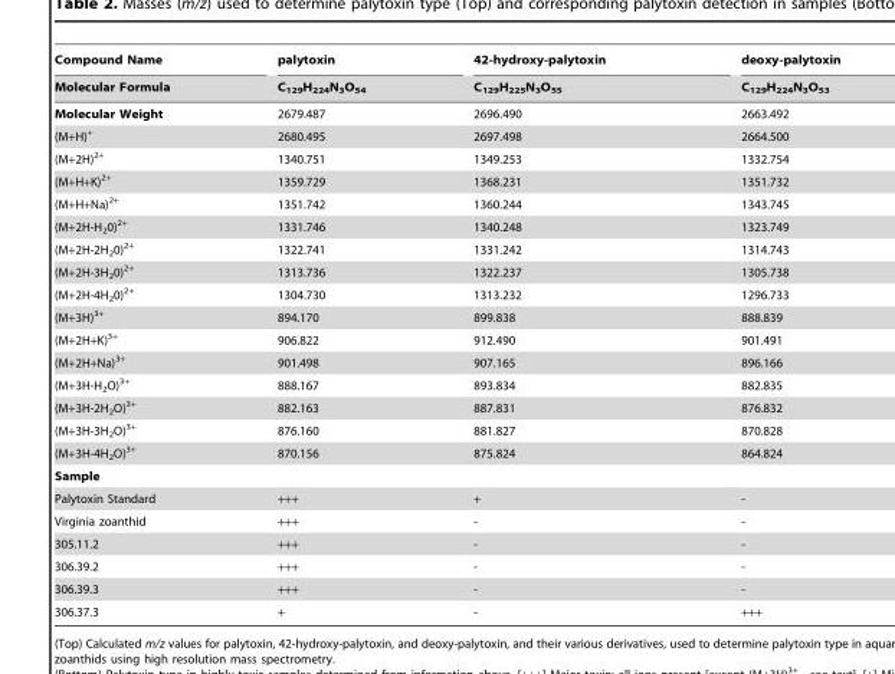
<table><thead><tr><td rowspan="2">Compound Name Molecular Formula</td><td rowspan="2">palytoxin C<sub>129</sub>H<sub>224</sub>N<sub>3</sub>O<sub>54</sub></td><td rowspan="2">42-hydroxy-palytoxin C<sub>129</sub>H<sub>225</sub>N<sub>3</sub>O<sub>55</sub></td><td rowspan="2">deoxy-palytoxin C<sub>129</sub>H<sub>224</sub>N<sub>3</sub>O<sub>53</sub></td></tr><tr></tr></thead><tbody><tr><td>Molecular Weight</td><td>2679.487</td><td>2696.490</td><td>2663.492</td></tr><tr><td>(M+H)<sup>+</sup></td><td>2680.495</td><td>2697.498</td><td>2664.500</td></tr><tr><td>(M+2H)<sup>2+</sup></td><td>1340.751</td><td>1349.253</td><td>1332.754</td></tr><tr><td>(M+H+K)<sup>2+</sup></td><td>1359.729</td><td>1368.231</td><td>1351.732</td></tr><tr><td>(M+H+Na)<sup>2+</sup></td><td>1351.742</td><td>1360.244</td><td>1343.745</td></tr><tr><td>(M+2H-H<sub>2</sub>0)<sup>2+</sup></td><td>1331.746</td><td>1340.248</td><td>1323.749</td></tr><tr><td>(M+2H-2H<sub>2</sub>0)<sup>2+</sup></td><td>1322.741</td><td>1331.242</td><td>1314.743</td></tr><tr><td>(M+2H-3H<sub>2</sub>0)<sup>2+</sup></td><td>1313.736</td><td>1322.237</td><td>1305.738</td></tr><tr><td>(M+2H-4H<sub>2</sub>0)<sup>2+</sup></td><td>1304.730</td><td>1313.232</td><td>1296.733</td></tr><tr><td>(M+3H)<sup>3+</sup></td><td>894.170</td><td>899.838</td><td>888.839</td></tr><tr><td>(M+2H+K)<sup>3+</sup></td><td>906.822</td><td>912.490</td><td>901.491</td></tr><tr><td>(M+2H+Na)<sup>3+</sup></td><td>901.498</td><td>907.165</td><td>896.166</td></tr><tr><td>(M+3H-H<sub>2</sub>O)<sup>3+</sup></td><td>888.167</td><td>893.834</td><td>882.835</td></tr><tr><td>(M+3H-2H<sub>2</sub>O)<sup>3+</sup></td><td>882.163</td><td>887.831</td><td>876.832</td></tr><tr><td>(M+3H-3H<sub>2</sub>O)<sup>3+</sup></td><td>876.160</td><td>881.827</td><td>870.828</td></tr><tr><td>(M+3H-4H<sub>2</sub>O)<sup>3+</sup></td><td>870.156</td><td>875.824</td><td>864.824</td></tr><tr><td colspan="4">Sample</td></tr><tr><td>Palytoxin Standard</td><td>+++</td><td>+</td><td>-</td></tr><tr><td>Virginia zoanthid</td><td>+++</td><td>-</td><td>-</td></tr><tr><td>305.11.2</td><td>+++</td><td>-</td><td>-</td></tr><tr><td>306.39.2</td><td>+++</td><td>-</td><td>-</td></tr><tr><td>306.39.3</td><td>+++</td><td>-</td><td>-</td></tr><tr><td>306.37.3</td><td>+</td><td>-</td><td>+++</td></tr></tbody></table>